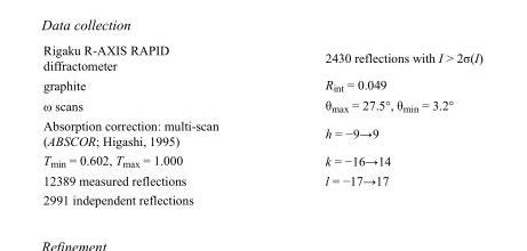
<table><tbody><tr><td>Rigaku R-AXIS RAPID diffractometer</td><td>2430 reflections with I &gt; 2σ(I)</td></tr><tr><td>graphite</td><td>R<sub>int</sub> = 0.049</td></tr><tr><td>ω scans</td><td>θ<sub>max</sub> = 27.5°, θ<sub>min</sub> = 3.2°</td></tr><tr><td>Absorption correction: multi-scan (ABSCOR; Higashi, 1995)</td><td>h = −9→9</td></tr><tr><td>T<sub>min</sub> = 0.602, T<sub>max</sub> = 1.000</td><td>k = −16→14</td></tr><tr><td>12389 measured reflections</td><td>l = −17→17</td></tr><tr><td>2991 independent reflections</td><td></td></tr></tbody></table>